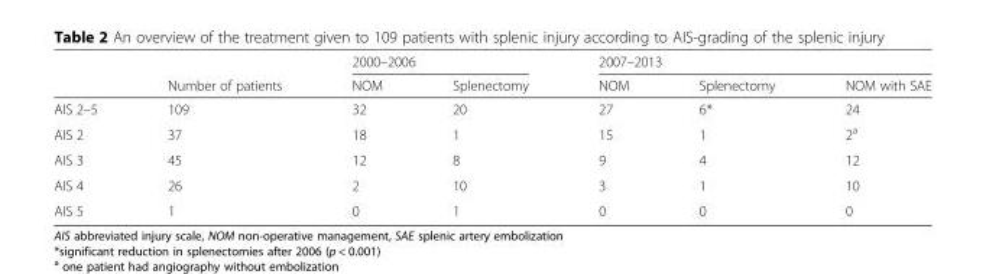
<table><thead><tr><td rowspan="2"></td><td rowspan="2">Number of patients</td><td colspan="2">2000–2006</td><td colspan="3">2007–2013</td></tr><tr><td>NOM</td><td>Splenectomy</td><td>NOM</td><td>Splenectomy</td><td>NOM with SAE</td></tr></thead><tbody><tr><td>AIS 2–5</td><td>109</td><td>32</td><td>20</td><td>27</td><td>6*</td><td>24</td></tr><tr><td>AIS 2</td><td>37</td><td>18</td><td>1</td><td>15</td><td>1</td><td>2<sup>a</sup></td></tr><tr><td>AIS 3</td><td>45</td><td>12</td><td>8</td><td>9</td><td>4</td><td>12</td></tr><tr><td>AIS 4</td><td>26</td><td>2</td><td>10</td><td>3</td><td>1</td><td>10</td></tr><tr><td>AIS 5</td><td>1</td><td>0</td><td>1</td><td>0</td><td>0</td><td>0</td></tr></tbody></table>